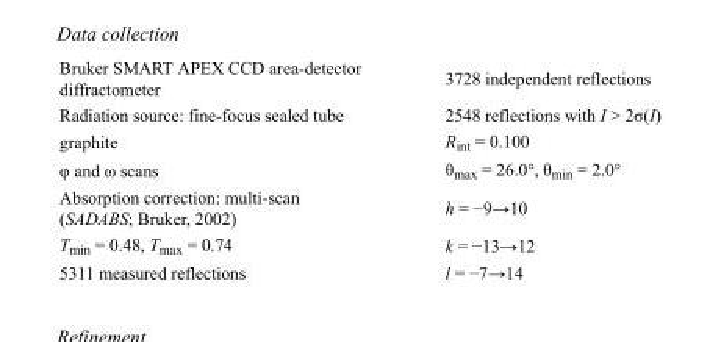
<table><tbody><tr><td>Bruker SMART APEX CCD area-detector diffractometer</td><td>3728 independent reflections</td></tr><tr><td>Radiation source: fine-focus sealed tube</td><td>2548 reflections with I &gt; 2σ(I)</td></tr><tr><td>graphite</td><td>R<sub>int</sub> = 0.100</td></tr><tr><td>φ and ω scans</td><td>θ<sub>max</sub> = 26.0°, θ<sub>min</sub> = 2.0°</td></tr><tr><td>Absorption correction: multi-scan (SADABS; Bruker, 2002)</td><td>h = −9→10</td></tr><tr><td>T<sub>min</sub> = 0.48, T<sub>max</sub> = 0.74</td><td>k = −13→12</td></tr><tr><td>5311 measured reflections</td><td>l = −7→14</td></tr></tbody></table>